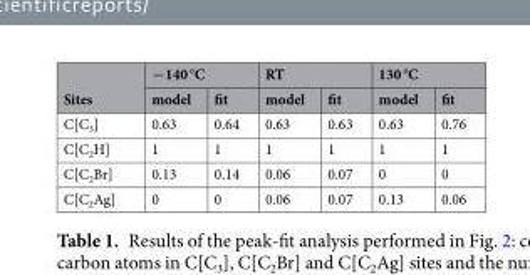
<table><thead><tr><td rowspan="2">Sites</td><td colspan="2">−140 °C</td><td colspan="2">RT</td><td colspan="2">130 °C</td></tr><tr><td>model</td><td>fit</td><td>model</td><td>fit</td><td>model</td><td>fit</td></tr></thead><tbody><tr><td>C[C<sub>3</sub>]</td><td>0.63</td><td>0.64</td><td>0.63</td><td>0.63</td><td>0.63</td><td>0.76</td></tr><tr><td>C[C<sub>2</sub>H]</td><td>1</td><td>1</td><td>1</td><td>1</td><td>1</td><td>1</td></tr><tr><td>C[C<sub>2</sub>Br]</td><td>0.13</td><td>0.14</td><td>0.06</td><td>0.07</td><td>0</td><td>0</td></tr><tr><td>C[C<sub>2</sub>Ag]</td><td>0</td><td>0</td><td>0.06</td><td>0.07</td><td>0.13</td><td>0.06</td></tr></tbody></table>